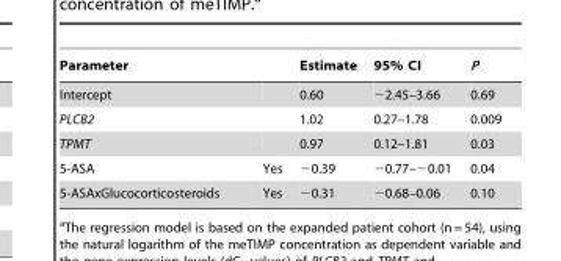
<table><thead><tr><td>Parameter</td><td></td><td>Estimate</td><td>95% CI</td><td>P</td></tr></thead><tbody><tr><td>Intercept</td><td></td><td>0.60</td><td>−2.45–3.66</td><td>0.69</td></tr><tr><td>PLCB2</td><td></td><td>1.02</td><td>0.27–1.78</td><td>0.009</td></tr><tr><td>TPMT</td><td></td><td>0.97</td><td>0.12–1.81</td><td>0.03</td></tr><tr><td>5-ASA</td><td>Yes</td><td>−0.39</td><td>−0.77–−0.01</td><td>0.04</td></tr><tr><td>5-ASAxGlucocorticosteroids</td><td>Yes</td><td>−0.31</td><td>−0.68–0.06</td><td>0.10</td></tr></tbody></table>